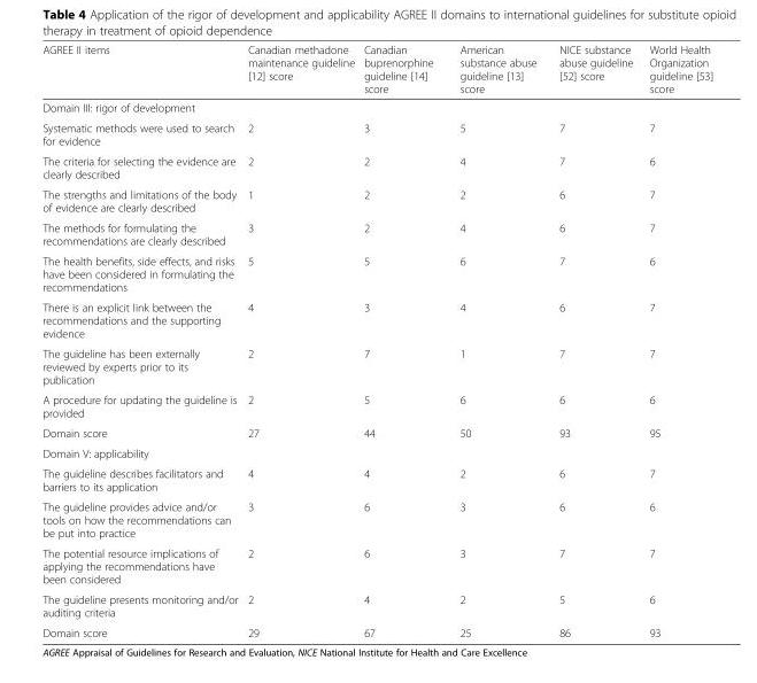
<table><thead><tr><td>AGREE II items</td><td>Canadian methadone maintenance guideline [12] score</td><td>Canadian buprenorphine guideline [14] score</td><td>American substance abuse guideline [13] score</td><td>NICE substance abuse guideline [52] score</td><td>World Health Organization guideline [53] score</td></tr></thead><tbody><tr><td colspan="6">Domain III: rigor of development</td></tr><tr><td>Systematic methods were used to search for evidence</td><td>2</td><td>3</td><td>5</td><td>7</td><td>7</td></tr><tr><td>The criteria for selecting the evidence are clearly described</td><td>2</td><td>2</td><td>4</td><td>7</td><td>6</td></tr><tr><td>The strengths and limitations of the body of evidence are clearly described</td><td>1</td><td>2</td><td>2</td><td>6</td><td>7</td></tr><tr><td>The methods for formulating the recommendations are clearly described</td><td>3</td><td>2</td><td>4</td><td>6</td><td>7</td></tr><tr><td>The health benefits, side effects, and risks have been considered in formulating the recommendations</td><td>5</td><td>5</td><td>6</td><td>7</td><td>6</td></tr><tr><td>There is an explicit link between the recommendations and the supporting evidence</td><td>4</td><td>3</td><td>4</td><td>6</td><td>7</td></tr><tr><td>The guideline has been externally reviewed by experts prior to its publication</td><td>2</td><td>7</td><td>1</td><td>7</td><td>7</td></tr><tr><td>A procedure for updating the guideline is provided</td><td>2</td><td>5</td><td>6</td><td>6</td><td>6</td></tr><tr><td>Domain score</td><td>27</td><td>44</td><td>50</td><td>93</td><td>95</td></tr><tr><td colspan="6">Domain V: applicability</td></tr><tr><td>The guideline describes facilitators and barriers to its application</td><td>4</td><td>4</td><td>2</td><td>6</td><td>7</td></tr><tr><td>The guideline provides advice and/or tools on how the recommendations can be put into practice</td><td>3</td><td>6</td><td>3</td><td>6</td><td>6</td></tr><tr><td>The potential resource implications of applying the recommendations have been considered</td><td>2</td><td>6</td><td>3</td><td>7</td><td>7</td></tr><tr><td>The guideline presents monitoring and/or auditing criteria</td><td>2</td><td>4</td><td>2</td><td>5</td><td>6</td></tr><tr><td>Domain score</td><td>29</td><td>67</td><td>25</td><td>86</td><td>93</td></tr></tbody></table>